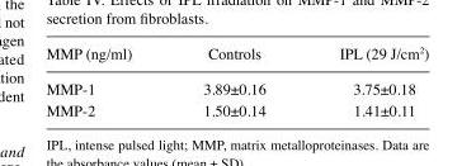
<table><thead><tr><td>MMP (ng/ml)</td><td>Controls</td><td>IPL (29 J/cm<sup>2</sup>)</td></tr></thead><tbody><tr><td>MMP-1</td><td>3.89±0.16</td><td>3.75±0.18</td></tr><tr><td>MMP-2</td><td>1.50±0.14</td><td>1.41±0.11</td></tr></tbody></table>